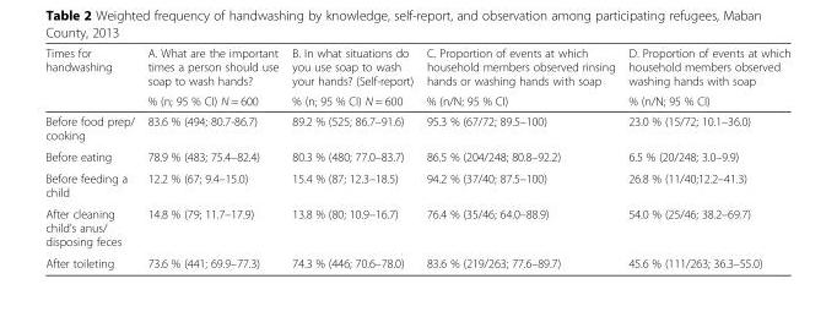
<table><thead><tr><td rowspan="2">Times for handwashing</td><td rowspan="2">A. What are the important times a person should use soap to wash hands? % (n; 95 % CI) N = 600</td><td rowspan="2">B. In what situations do you use soap to wash your hands? (Self-report) % (n; 95 % CI) N = 600</td><td rowspan="2">C. Proportion of events at which household members observed rinsing hands or washing hands with soap % (n/N; 95 % CI)</td><td rowspan="2">D. Proportion of events at which household members observed washing hands with soap % (n/N; 95 % CI)</td></tr><tr></tr></thead><tbody><tr><td>Before food prep/ cooking</td><td>83.6 % (494; 80.7-86.7)</td><td>89.2 % (525; 86.7–91.6)</td><td>95.3 % (67/72; 89.5–100)</td><td>23.0 % (15/72; 10.1–36.0)</td></tr><tr><td>Before eating</td><td>78.9 % (483; 75.4–82.4)</td><td>80.3 % (480; 77.0–83.7)</td><td>86.5 % (204/248; 80.8–92.2)</td><td>6.5 % (20/248; 3.0–9.9)</td></tr><tr><td>Before feeding a child</td><td>12.2 % (67; 9.4–15.0)</td><td>15.4 % (87; 12.3–18.5)</td><td>94.2 % (37/40; 87.5–100)</td><td>26.8 % (11/40;12.2–41.3)</td></tr><tr><td>After cleaning child’s anus/ disposing feces</td><td>14.8 % (79; 11.7–17.9)</td><td>13.8 % (80; 10.9–16.7)</td><td>76.4 % (35/46; 64.0–88.9)</td><td>54.0 % (25/46; 38.2–69.7)</td></tr><tr><td>After toileting</td><td>73.6 % (441; 69.9–77.3)</td><td>74.3 % (446; 70.6–78.0)</td><td>83.6 % (219/263; 77.6–89.7)</td><td>45.6 % (111/263; 36.3–55.0)</td></tr></tbody></table>